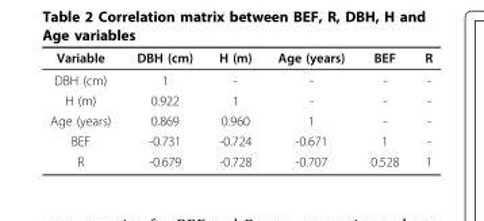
<table><thead><tr><td>Variable</td><td>DBH (cm)</td><td>H (m)</td><td>Age (years)</td><td>BEF</td><td>R</td></tr></thead><tbody><tr><td>DBH (cm)</td><td>1</td><td>-</td><td>-</td><td>-</td><td>-</td></tr><tr><td>H (m)</td><td>0.922</td><td>1</td><td>-</td><td>-</td><td>-</td></tr><tr><td>Age (years)</td><td>0.869</td><td>0.960</td><td>1</td><td>-</td><td>-</td></tr><tr><td>BEF</td><td>-0.731</td><td>-0.724</td><td>-0.671</td><td>1</td><td>-</td></tr><tr><td>R</td><td>-0.679</td><td>-0.728</td><td>-0.707</td><td>0.528</td><td>1</td></tr></tbody></table>